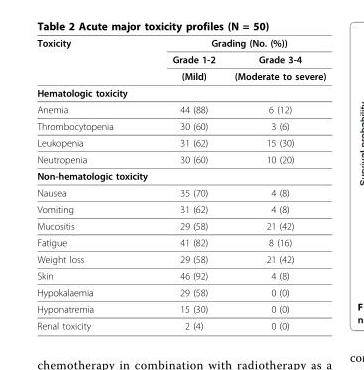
<table><thead><tr><td rowspan="3">Toxicity</td><td colspan="2">Grading (No. (%))</td></tr><tr><td rowspan="2">Grade 1-2 (Mild)</td><td rowspan="2">Grade 3-4 (Moderate to severe)</td></tr><tr></tr></thead><tbody><tr><td colspan="3">Hematologic toxicity</td></tr><tr><td>Anemia</td><td>44 (88)</td><td>6 (12)</td></tr><tr><td>Thrombocytopenia</td><td>30 (60)</td><td>3 (6)</td></tr><tr><td>Leukopenia</td><td>31 (62)</td><td>15 (30)</td></tr><tr><td>Neutropenia</td><td>30 (60)</td><td>10 (20)</td></tr><tr><td colspan="3">Non-hematologic toxicity</td></tr><tr><td>Nausea</td><td>35 (70)</td><td>4 (8)</td></tr><tr><td>Vomiting</td><td>31 (62)</td><td>4 (8)</td></tr><tr><td>Mucositis</td><td>29 (58)</td><td>21 (42)</td></tr><tr><td>Fatigue</td><td>41 (82)</td><td>8 (16)</td></tr><tr><td>Weight loss</td><td>29 (58)</td><td>21 (42)</td></tr><tr><td>Skin</td><td>46 (92)</td><td>4 (8)</td></tr><tr><td>Hypokalaemia</td><td>29 (58)</td><td>0 (0)</td></tr><tr><td>Hyponatremia</td><td>15 (30)</td><td>0 (0)</td></tr><tr><td>Renal toxicity</td><td>2 (4)</td><td>0 (0)</td></tr></tbody></table>